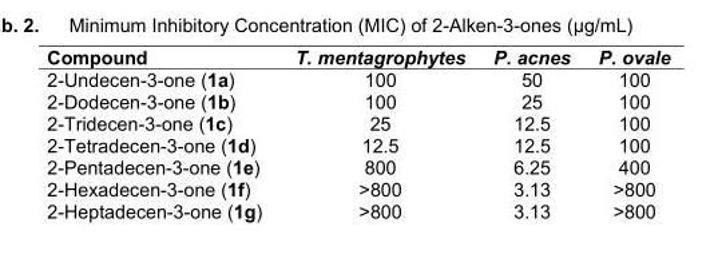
<table><thead><tr><td>Compound</td><td>T. mentagrophytes</td><td>P. acnes</td><td>P. ovale</td></tr></thead><tbody><tr><td>2-Undecen-3-one (1a)</td><td>100</td><td>50</td><td>100</td></tr><tr><td>2-Dodecen-3-one (1b)</td><td>100</td><td>25</td><td>100</td></tr><tr><td>2-Tridecen-3-one (1c)</td><td>25</td><td>12.5</td><td>100</td></tr><tr><td>2-Tetradecen-3-one (1d)</td><td>12.5</td><td>12.5</td><td>100</td></tr><tr><td>2-Pentadecen-3-one (1e)</td><td>800</td><td>6.25</td><td>400</td></tr><tr><td>2-Hexadecen-3-one (1f)</td><td>&gt;800</td><td>3.13</td><td>&gt;800</td></tr><tr><td>2-Heptadecen-3-one (1g)</td><td>&gt;800</td><td>3.13</td><td>&gt;800</td></tr></tbody></table>